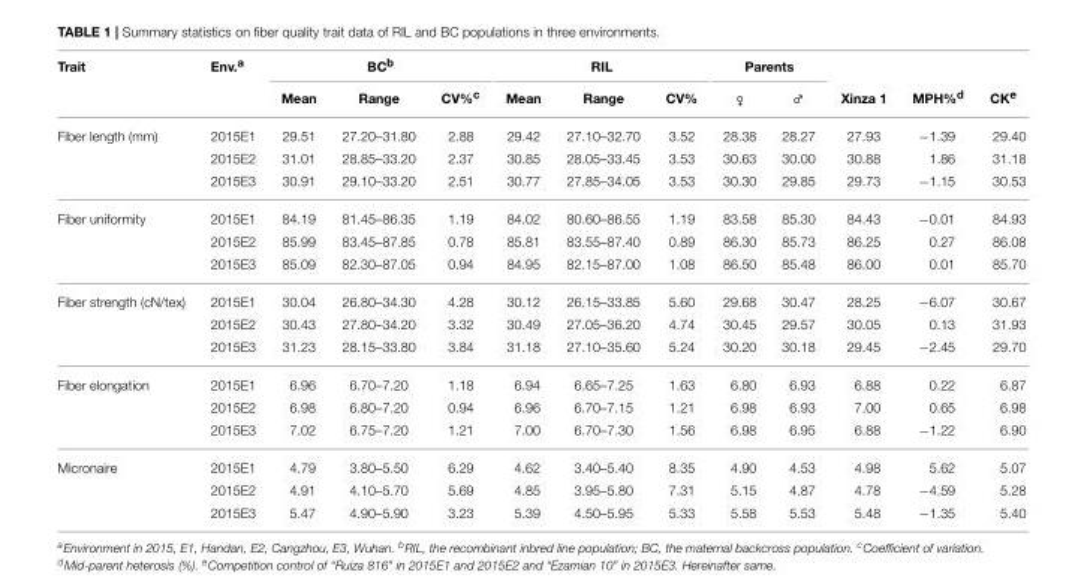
<table><thead><tr><td rowspan="2">Trait</td><td rowspan="2">Env.<sup>a</sup></td><td colspan="3">BC<sup>b</sup></td><td colspan="3">RIL</td><td colspan="2">Parents</td><td rowspan="2">Xinza 1</td><td rowspan="2">MPH%<sup>d</sup></td><td rowspan="2">CK<sup>e</sup></td></tr><tr><td>Mean</td><td>Range</td><td>CV%<sup>c</sup></td><td>Mean</td><td>Range</td><td>CV%</td><td>♀</td><td>♂</td></tr></thead><tbody><tr><td rowspan="3">Fiber length (mm)</td><td>2015E1</td><td>29.51</td><td>27.20–31.80</td><td>2.88</td><td>29.42</td><td>27.10–32.70</td><td>3.52</td><td>28.38</td><td>28.27</td><td>27.93</td><td>−1.39</td><td>29.40</td></tr><tr><td>2015E2</td><td>31.01</td><td>28.85–33.20</td><td>2.37</td><td>30.85</td><td>28.05–33.45</td><td>3.53</td><td>30.63</td><td>30.00</td><td>30.88</td><td>1.86</td><td>31.18</td></tr><tr><td>2015E3</td><td>30.91</td><td>29.10–33.20</td><td>2.51</td><td>30.77</td><td>27.85–34.05</td><td>3.53</td><td>30.30</td><td>29.85</td><td>29.73</td><td>−1.15</td><td>30.53</td></tr><tr><td rowspan="3">Fiber uniformity</td><td>2015E1</td><td>84.19</td><td>81.45–86.35</td><td>1.19</td><td>84.02</td><td>80.60–86.55</td><td>1.19</td><td>83.58</td><td>85.30</td><td>84.43</td><td>−0.01</td><td>84.93</td></tr><tr><td>2015E2</td><td>85.99</td><td>83.45–87.85</td><td>0.78</td><td>85.81</td><td>83.55–87.40</td><td>0.89</td><td>86.30</td><td>85.73</td><td>86.25</td><td>0.27</td><td>86.08</td></tr><tr><td>2015E3</td><td>85.09</td><td>82.30–87.05</td><td>0.94</td><td>84.95</td><td>82.15–87.00</td><td>1.08</td><td>86.50</td><td>85.48</td><td>86.00</td><td>0.01</td><td>85.70</td></tr><tr><td rowspan="3">Fiber strength (cN/tex)</td><td>2015E1</td><td>30.04</td><td>26.80–34.30</td><td>4.28</td><td>30.12</td><td>26.15–33.85</td><td>5.60</td><td>29.68</td><td>30.47</td><td>28.25</td><td>−6.07</td><td>30.67</td></tr><tr><td>2015E2</td><td>30.43</td><td>27.80–34.20</td><td>3.32</td><td>30.49</td><td>27.05–36.20</td><td>4.74</td><td>30.45</td><td>29.57</td><td>30.05</td><td>0.13</td><td>31.93</td></tr><tr><td>2015E3</td><td>31.23</td><td>28.15–33.80</td><td>3.84</td><td>31.18</td><td>27.10–35.60</td><td>5.24</td><td>30.20</td><td>30.18</td><td>29.45</td><td>−2.45</td><td>29.70</td></tr><tr><td rowspan="3">Fiber elongation</td><td>2015E1</td><td>6.96</td><td>6.70–7.20</td><td>1.18</td><td>6.94</td><td>6.65–7.25</td><td>1.63</td><td>6.80</td><td>6.93</td><td>6.88</td><td>0.22</td><td>6.87</td></tr><tr><td>2015E2</td><td>6.98</td><td>6.80–7.20</td><td>0.94</td><td>6.96</td><td>6.70–7.15</td><td>1.21</td><td>6.98</td><td>6.93</td><td>7.00</td><td>0.65</td><td>6.98</td></tr><tr><td>2015E3</td><td>7.02</td><td>6.75–7.20</td><td>1.21</td><td>7.00</td><td>6.70–7.30</td><td>1.56</td><td>6.98</td><td>6.95</td><td>6.88</td><td>−1.22</td><td>6.90</td></tr><tr><td rowspan="3">Micronaire</td><td>2015E1</td><td>4.79</td><td>3.80–5.50</td><td>6.29</td><td>4.62</td><td>3.40–5.40</td><td>8.35</td><td>4.90</td><td>4.53</td><td>4.98</td><td>5.62</td><td>5.07</td></tr><tr><td>2015E2</td><td>4.91</td><td>4.10–5.70</td><td>5.69</td><td>4.85</td><td>3.95–5.80</td><td>7.31</td><td>5.15</td><td>4.87</td><td>4.78</td><td>−4.59</td><td>5.28</td></tr><tr><td>2015E3</td><td>5.47</td><td>4.90–5.90</td><td>3.23</td><td>5.39</td><td>4.50–5.95</td><td>5.33</td><td>5.58</td><td>5.53</td><td>5.48</td><td>−1.35</td><td>5.40</td></tr></tbody></table>